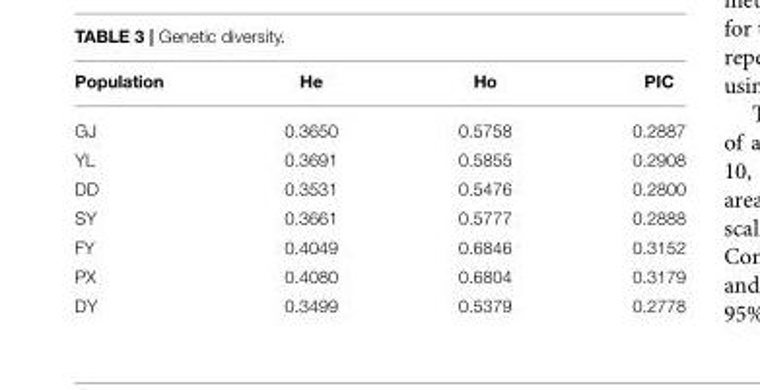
<table><thead><tr><td>Population</td><td>He</td><td>Ho</td><td>PIC</td></tr></thead><tbody><tr><td>GJ</td><td>0.3650</td><td>0.5758</td><td>0.2887</td></tr><tr><td>YL</td><td>0.3691</td><td>0.5855</td><td>0.2908</td></tr><tr><td>DD</td><td>0.3531</td><td>0.5476</td><td>0.2800</td></tr><tr><td>SY</td><td>0.3661</td><td>0.5777</td><td>0.2888</td></tr><tr><td>FY</td><td>0.4049</td><td>0.6846</td><td>0.3152</td></tr><tr><td>PX</td><td>0.4080</td><td>0.6804</td><td>0.3179</td></tr><tr><td>DY</td><td>0.3499</td><td>0.5379</td><td>0.2778</td></tr></tbody></table>